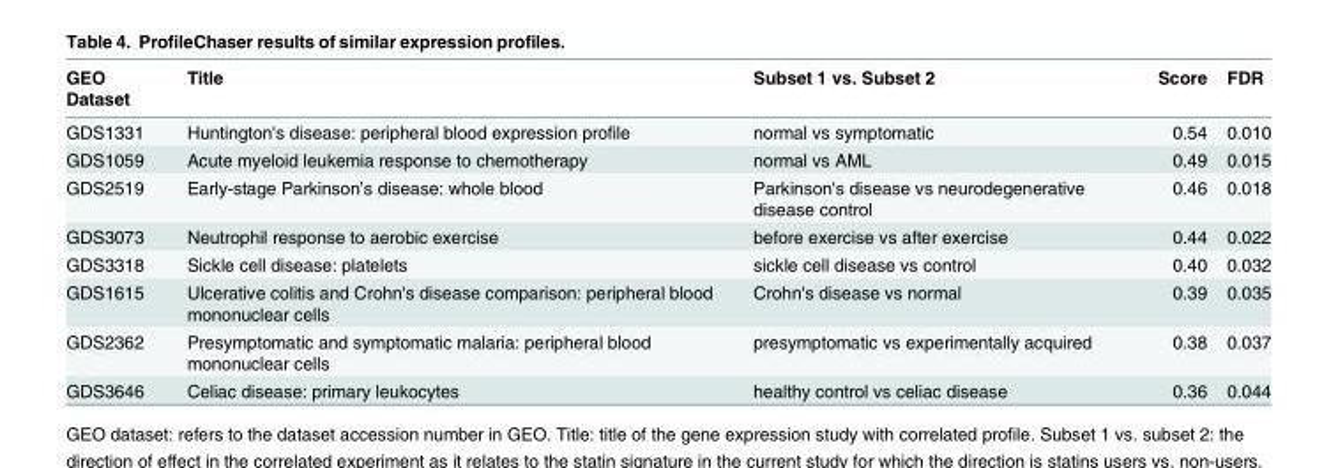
<table><thead><tr><td>GEO Dataset</td><td>Title</td><td>Subset 1 vs. Subset 2</td><td>Score</td><td>FDR</td></tr></thead><tbody><tr><td>GDS1331</td><td>Huntington&#x27;s disease: peripheral blood expression profile</td><td>normal vs symptomatic</td><td>0.54</td><td>0.010</td></tr><tr><td>GDS1059</td><td>Acute myeloid leukemia response to chemotherapy</td><td>normal vs AML</td><td>0.49</td><td>0.015</td></tr><tr><td>GDS2519</td><td>Early-stage Parkinson’s disease: whole blood</td><td>Parkinson&#x27;s disease vs neurodegenerative disease control</td><td>0.46</td><td>0.018</td></tr><tr><td>GDS3073</td><td>Neutrophil response to aerobic exercise</td><td>before exercise vs after exercise</td><td>0.44</td><td>0.022</td></tr><tr><td>GDS3318</td><td>Sickle cell disease: platelets</td><td>sickle cell disease vs control</td><td>0.40</td><td>0.032</td></tr><tr><td>GDS1615</td><td>Ulcerative colitis and Crohn&#x27;s disease comparison: peripheral blood mononuclear cells</td><td>Crohn&#x27;s disease vs normal</td><td>0.39</td><td>0.035</td></tr><tr><td>GDS2362</td><td>Presymptomatic and symptomatic malaria: peripheral blood mononuclear cells</td><td>presymptomatic vs experimentally acquired</td><td>0.38</td><td>0.037</td></tr><tr><td>GDS3646</td><td>Celiac disease: primary leukocytes</td><td>healthy control vs celiac disease</td><td>0.36</td><td>0.044</td></tr></tbody></table>